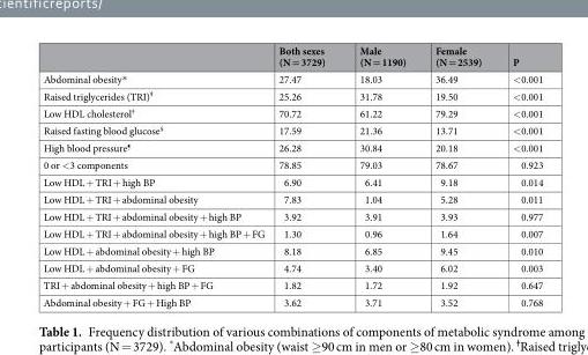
<table><thead><tr><td></td><td>Both sexes (N = 3729)</td><td>Male (N = 1190)</td><td>Female (N = 2539)</td><td>P</td></tr></thead><tbody><tr><td>Abdominal obesity*</td><td>27.47</td><td>18.03</td><td>36.49</td><td>&lt;0.001</td></tr><tr><td>Raised triglycerides (TRI)<sup>ɫ</sup></td><td>25.26</td><td>31.78</td><td>19.50</td><td>&lt;0.001</td></tr><tr><td>Low HDL cholesterol<sup>ǂ</sup></td><td>70.72</td><td>61.22</td><td>79.29</td><td>&lt;0.001</td></tr><tr><td>Raised fasting blood glucose<sup>§</sup></td><td>17.59</td><td>21.36</td><td>13.71</td><td>&lt;0.001</td></tr><tr><td>High blood pressure<sup>¶</sup></td><td>26.28</td><td>30.84</td><td>20.18</td><td>&lt;0.001</td></tr><tr><td>0 or &lt;3 components</td><td>78.85</td><td>79.03</td><td>78.67</td><td>0.923</td></tr><tr><td>Low HDL + TRI + high BP</td><td>6.90</td><td>6.41</td><td>9.18</td><td>0.014</td></tr><tr><td>Low HDL + TRI + abdominal obesity</td><td>7.83</td><td>1.04</td><td>5.28</td><td>0.011</td></tr><tr><td>Low HDL + TRI + abdominal obesity + high BP</td><td>3.92</td><td>3.91</td><td>3.93</td><td>0.977</td></tr><tr><td>Low HDL + TRI + abdominal obesity + high BP + FG</td><td>1.30</td><td>0.96</td><td>1.64</td><td>0.007</td></tr><tr><td>Low HDL + abdominal obesity + high BP</td><td>8.18</td><td>6.85</td><td>9.45</td><td>0.010</td></tr><tr><td>Low HDL + abdominal obesity + FG</td><td>4.74</td><td>3.40</td><td>6.02</td><td>0.003</td></tr><tr><td>TRI + abdominal obesity + high BP + FG</td><td>1.82</td><td>1.72</td><td>1.92</td><td>0.647</td></tr><tr><td>Abdominal obesity + FG + High BP</td><td>3.62</td><td>3.71</td><td>3.52</td><td>0.768</td></tr></tbody></table>